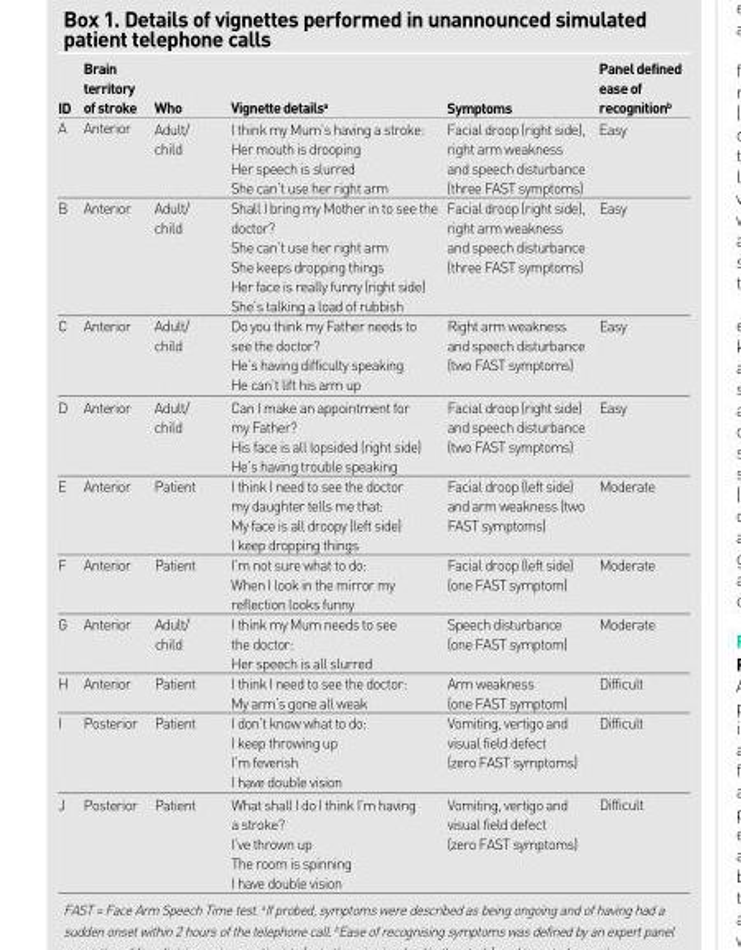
<table><thead><tr><td>ID</td><td>Brain territory of stroke</td><td>Who</td><td>Vignette details<sup>a</sup></td><td>Symptoms</td><td>Panel defined ease of recognition<sup>b</sup></td></tr></thead><tbody><tr><td>A</td><td>Anterior</td><td>Adult/ child</td><td>I think my Mum’s having a stroke: Her mouth is drooping Her speech is slurred She can’t use her right arm</td><td>Facial droop (right side), right arm weakness and speech disturbance (three FAST symptoms)</td><td>Easy</td></tr><tr><td>B</td><td>Anterior</td><td>Adult/ child</td><td>Shall I bring my Mother in to see the doctor? She can’t use her right arm She keeps dropping things Her face is really funny (right side) She’s talking a load of rubbish</td><td>Facial droop (right side), right arm weakness and speech disturbance (three FAST symptoms)</td><td>Easy</td></tr><tr><td>C</td><td>Anterior</td><td>Adult/ child</td><td>Do you think my Father needs to see the doctor? He’s having difficulty speaking He can’t lift his arm up</td><td>Right arm weakness and speech disturbance (two FAST symptoms)</td><td>Easy</td></tr><tr><td>D</td><td>Anterior</td><td>Adult/ child</td><td>Can I make an appointment for my Father? His face is all lopsided (right side) He’s having trouble speaking</td><td>Facial droop (right side) and speech disturbance (two FAST symptoms)</td><td>Easy</td></tr><tr><td>E</td><td>Anterior</td><td>Patient</td><td>I think I need to see the doctor my daughter tells me that: My face is all droopy (left side) I keep dropping things</td><td>Facial droop (left side) and arm weakness (two FAST symptoms)</td><td>Moderate</td></tr><tr><td>F</td><td>Anterior</td><td>Patient</td><td>I’m not sure what to do: When I look in the mirror my reflection looks funny</td><td>Facial droop (left side) (one FAST symptom)</td><td>Moderate</td></tr><tr><td>G</td><td>Anterior</td><td>Adult/ child</td><td>I think my Mum needs to see the doctor: Her speech is all slurred</td><td>Speech disturbance (one FAST symptom)</td><td>Moderate</td></tr><tr><td>H</td><td>Anterior</td><td>Patient</td><td>I think I need to see the doctor: My arm’s gone all weak</td><td>Arm weakness (one FAST symptom)</td><td>Difficult</td></tr><tr><td>I</td><td>Posterior</td><td>Patient</td><td>I don’t know what to do: I keep throwing up I’m feverish I have double vision</td><td>Vomiting, vertigo and visual field defect (zero FAST symptoms)</td><td>Difficult</td></tr><tr><td>J</td><td>Posterior</td><td>Patient</td><td>What shall I do I think I’m having a stroke? I’ve thrown up The room is spinning I have double vision</td><td>Vomiting, vertigo and visual field defect (zero FAST symptoms)</td><td>Difficult</td></tr></tbody></table>